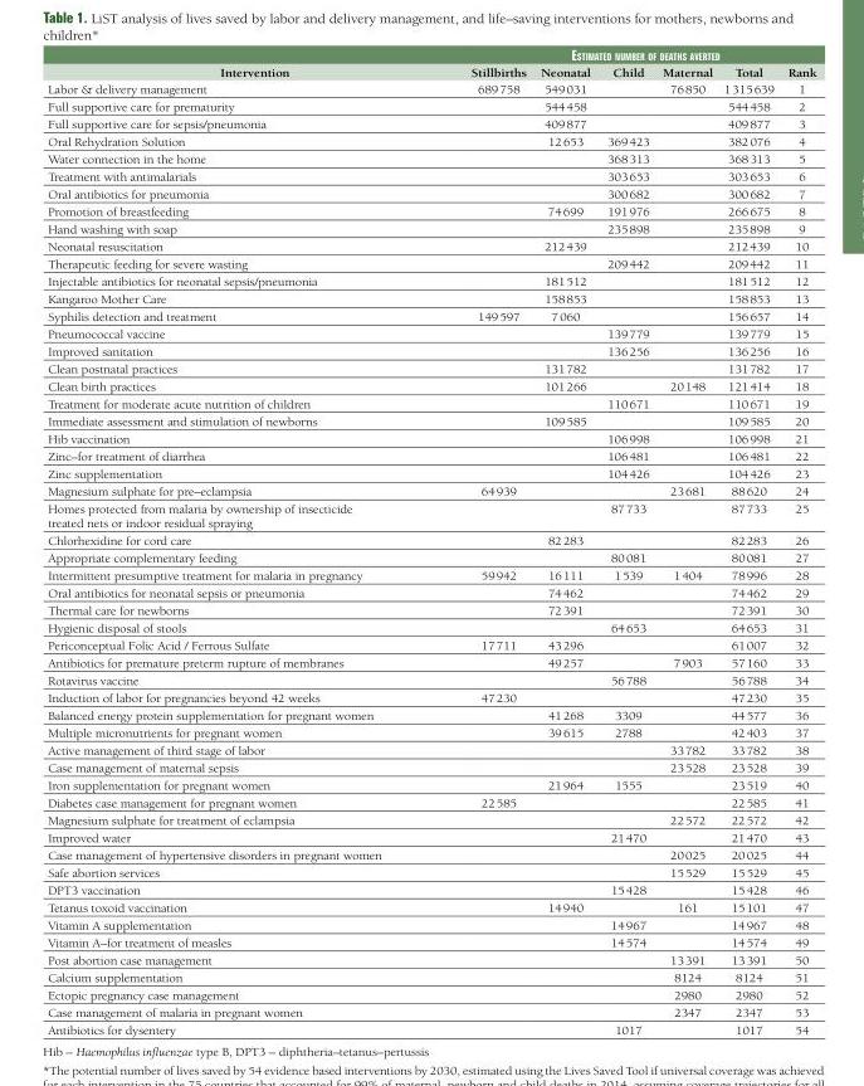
<table><thead><tr><td rowspan="2">Intervention</td><td colspan="6">EstimatEd numbEr of dEaths avErtEd</td></tr><tr><td>Stillbirths</td><td>Neonatal</td><td>Child</td><td>Maternal</td><td>Total</td><td>Rank</td></tr></thead><tbody><tr><td>Labor &amp; delivery management</td><td>689 758</td><td>549 031</td><td></td><td>76 850</td><td>1 315 639</td><td>1</td></tr><tr><td>Full supportive care for prematurity</td><td></td><td>544 458</td><td></td><td></td><td>544 458</td><td>2</td></tr><tr><td>Full supportive care for sepsis/pneumonia</td><td></td><td>409 877</td><td></td><td></td><td>409 877</td><td>3</td></tr><tr><td>Oral Rehydration Solution</td><td></td><td>12 653</td><td>369 423</td><td></td><td>382 076</td><td>4</td></tr><tr><td>Water connection in the home</td><td></td><td></td><td>368 313</td><td></td><td>368 313</td><td>5</td></tr><tr><td>Treatment with antimalarials</td><td></td><td></td><td>303 653</td><td></td><td>303 653</td><td>6</td></tr><tr><td>Oral antibiotics for pneumonia</td><td></td><td></td><td>300 682</td><td></td><td>300 682</td><td>7</td></tr><tr><td>Promotion of breastfeeding</td><td></td><td>74 699</td><td>191 976</td><td></td><td>266 675</td><td>8</td></tr><tr><td>Hand washing with soap</td><td></td><td></td><td>235 898</td><td></td><td>235 898</td><td>9</td></tr><tr><td>Neonatal resuscitation</td><td></td><td>212 439</td><td></td><td></td><td>212 439</td><td>10</td></tr><tr><td>Therapeutic feeding for severe wasting</td><td></td><td></td><td>209 442</td><td></td><td>209 442</td><td>11</td></tr><tr><td>Injectable antibiotics for neonatal sepsis/pneumonia</td><td></td><td>181 512</td><td></td><td></td><td>181 512</td><td>12</td></tr><tr><td>Kangaroo Mother Care</td><td></td><td>158 853</td><td></td><td></td><td>158 853</td><td>13</td></tr><tr><td>Syphilis detection and treatment</td><td>149 597</td><td>7 060</td><td></td><td></td><td>156 657</td><td>14</td></tr><tr><td>Pneumococcal vaccine</td><td></td><td></td><td>139 779</td><td></td><td>139 779</td><td>15</td></tr><tr><td>Improved sanitation</td><td></td><td></td><td>136 256</td><td></td><td>136 256</td><td>16</td></tr><tr><td>Clean postnatal practices</td><td></td><td>131 782</td><td></td><td></td><td>131 782</td><td>17</td></tr><tr><td>Clean birth practices</td><td></td><td>101 266</td><td></td><td>20 148</td><td>121 414</td><td>18</td></tr><tr><td>Treatment for moderate acute nutrition of children</td><td></td><td></td><td>110 671</td><td></td><td>110 671</td><td>19</td></tr><tr><td>Immediate assessment and stimulation of newborns</td><td></td><td>109 585</td><td></td><td></td><td>109 585</td><td>20</td></tr><tr><td>Hib vaccination</td><td></td><td></td><td>106 998</td><td></td><td>106 998</td><td>21</td></tr><tr><td>Zinc–for treatment of diarrhea</td><td></td><td></td><td>106 481</td><td></td><td>106 481</td><td>22</td></tr><tr><td>Zinc supplementation</td><td></td><td></td><td>104 426</td><td></td><td>104 426</td><td>23</td></tr><tr><td>Magnesium sulphate for pre–eclampsia</td><td>64 939</td><td></td><td></td><td>23 681</td><td>88 620</td><td>24</td></tr><tr><td>Homes protected from malaria by ownership of insecticide treated nets or indoor residual spraying</td><td></td><td></td><td>87 733</td><td></td><td>87 733</td><td>25</td></tr><tr><td>Chlorhexidine for cord care</td><td></td><td>82 283</td><td></td><td></td><td>82 283</td><td>26</td></tr><tr><td>Appropriate complementary feeding</td><td></td><td></td><td>80 081</td><td></td><td>80 081</td><td>27</td></tr><tr><td>Intermittent presumptive treatment for malaria in pregnancy</td><td>59 942</td><td>16 111</td><td>1 539</td><td>1 404</td><td>78 996</td><td>28</td></tr><tr><td>Oral antibiotics for neonatal sepsis or pneumonia</td><td></td><td>74 462</td><td></td><td></td><td>74 462</td><td>29</td></tr><tr><td>Thermal care for newborns</td><td></td><td>72 391</td><td></td><td></td><td>72 391</td><td>30</td></tr><tr><td>Hygienic disposal of stools</td><td></td><td></td><td>64 653</td><td></td><td>64 653</td><td>31</td></tr><tr><td>Periconceptual Folic Acid / Ferrous Sulfate</td><td>17 711</td><td>43 296</td><td></td><td></td><td>61 007</td><td>32</td></tr><tr><td>Antibiotics for premature preterm rupture of membranes</td><td></td><td>49 257</td><td></td><td>7 903</td><td>57 160</td><td>33</td></tr><tr><td>Rotavirus vaccine</td><td></td><td></td><td>56 788</td><td></td><td>56 788</td><td>34</td></tr><tr><td>Induction of labor for pregnancies beyond 42 weeks</td><td>47 230</td><td></td><td></td><td></td><td>47 230</td><td>35</td></tr><tr><td>Balanced energy protein supplementation for pregnant women</td><td></td><td>41 268</td><td>3309</td><td></td><td>44 577</td><td>36</td></tr><tr><td>Multiple micronutrients for pregnant women</td><td></td><td>39 615</td><td>2788</td><td></td><td>42 403</td><td>37</td></tr><tr><td>Active management of third stage of labor</td><td></td><td></td><td></td><td>33 782</td><td>33 782</td><td>38</td></tr><tr><td>Case management of maternal sepsis</td><td></td><td></td><td></td><td>23 528</td><td>23 528</td><td>39</td></tr><tr><td>Iron supplementation for pregnant women</td><td></td><td>21 964</td><td>1555</td><td></td><td>23 519</td><td>40</td></tr><tr><td>Diabetes case management for pregnant women</td><td>22 585</td><td></td><td></td><td></td><td>22 585</td><td>41</td></tr><tr><td>Magnesium sulphate for treatment of eclampsia</td><td></td><td></td><td></td><td>22 572</td><td>22 572</td><td>42</td></tr><tr><td>Improved water</td><td></td><td></td><td>21 470</td><td></td><td>21 470</td><td>43</td></tr><tr><td>Case management of hypertensive disorders in pregnant women</td><td></td><td></td><td></td><td>20 025</td><td>20 025</td><td>44</td></tr><tr><td>Safe abortion services</td><td></td><td></td><td></td><td>15 529</td><td>15 529</td><td>45</td></tr><tr><td>DPT3 vaccination</td><td></td><td></td><td>15 428</td><td></td><td>15 428</td><td>46</td></tr><tr><td>Tetanus toxoid vaccination</td><td></td><td>14 940</td><td></td><td>161</td><td>15 101</td><td>47</td></tr><tr><td>Vitamin A supplementation</td><td></td><td></td><td>14 967</td><td></td><td>14 967</td><td>48</td></tr><tr><td>Vitamin A–for treatment of measles</td><td></td><td></td><td>14 574</td><td></td><td>14 574</td><td>49</td></tr><tr><td>Post abortion case management</td><td></td><td></td><td></td><td>13 391</td><td>13 391</td><td>50</td></tr><tr><td>Calcium supplementation</td><td></td><td></td><td></td><td>8124</td><td>8124</td><td>51</td></tr><tr><td>Ectopic pregnancy case management</td><td></td><td></td><td></td><td>2980</td><td>2980</td><td>52</td></tr><tr><td>Case management of malaria in pregnant women</td><td></td><td></td><td></td><td>2347</td><td>2347</td><td>53</td></tr><tr><td>Antibiotics for dysentery</td><td></td><td></td><td>1017</td><td></td><td>1017</td><td>54</td></tr></tbody></table>